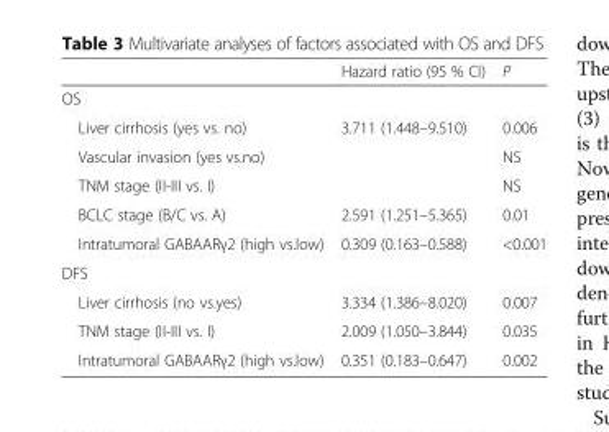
<table><thead><tr><td></td><td>Hazard ratio (95 % CI)</td><td>P</td></tr></thead><tbody><tr><td colspan="3">OS</td></tr><tr><td>Liver cirrhosis (yes vs. no)</td><td>3.711 (1.448–9.510)</td><td>0.006</td></tr><tr><td>Vascular invasion (yes vs.no)</td><td></td><td>NS</td></tr><tr><td>TNM stage (II-III vs. I)</td><td></td><td>NS</td></tr><tr><td>BCLC stage (B/C vs. A)</td><td>2.591 (1.251–5.365)</td><td>0.01</td></tr><tr><td>Intratumoral GABAARγ2 (high vs.low)</td><td>0.309 (0.163–0.588)</td><td>&lt;0.001</td></tr><tr><td colspan="3">DFS</td></tr><tr><td>Liver cirrhosis (no vs.yes)</td><td>3.334 (1.386–8.020)</td><td>0.007</td></tr><tr><td>TNM stage (II-III vs. I)</td><td>2.009 (1.050–3.844)</td><td>0.035</td></tr><tr><td>Intratumoral GABAARγ2 (high vs.low)</td><td>0.351 (0.183–0.647)</td><td>0.002</td></tr></tbody></table>